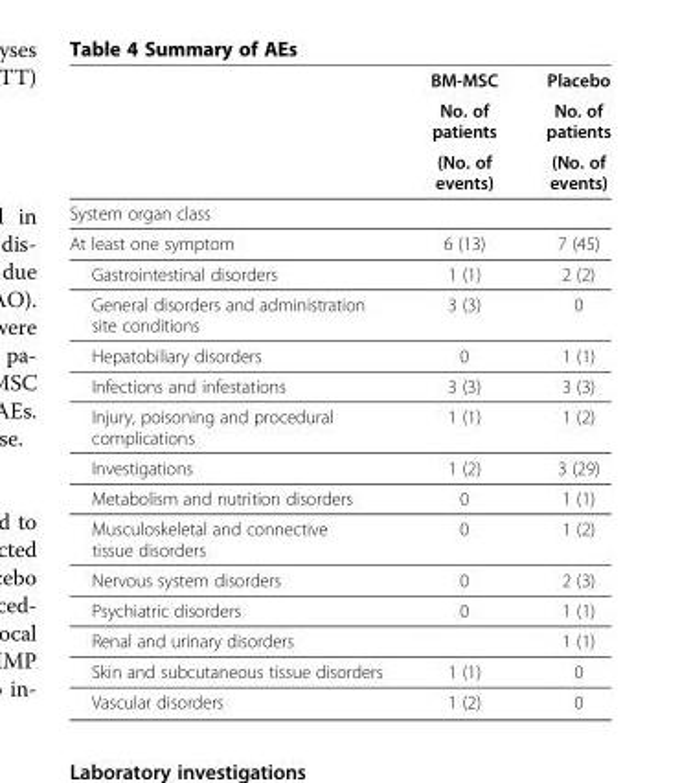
<table><thead><tr><td rowspan="3"></td><td rowspan="3">BM-MSC No. of patients (No. of events)</td><td rowspan="3">Placebo No. of patients (No. of events)</td></tr><tr></tr><tr></tr></thead><tbody><tr><td colspan="3">System organ class</td></tr><tr><td>At least one symptom</td><td>6 (13)</td><td>7 (45)</td></tr><tr><td>Gastrointestinal disorders</td><td>1 (1)</td><td>2 (2)</td></tr><tr><td>General disorders and administration site conditions</td><td>3 (3)</td><td>0</td></tr><tr><td>Hepatobiliary disorders</td><td>0</td><td>1 (1)</td></tr><tr><td>Infections and infestations</td><td>3 (3)</td><td>3 (3)</td></tr><tr><td>Injury, poisoning and procedural complications</td><td>1 (1)</td><td>1 (2)</td></tr><tr><td>Investigations</td><td>1 (2)</td><td>3 (29)</td></tr><tr><td>Metabolism and nutrition disorders</td><td>0</td><td>1 (1)</td></tr><tr><td>Musculoskeletal and connective tissue disorders</td><td>0</td><td>1 (2)</td></tr><tr><td>Nervous system disorders</td><td>0</td><td>2 (3)</td></tr><tr><td>Psychiatric disorders</td><td>0</td><td>1 (1)</td></tr><tr><td>Renal and urinary disorders</td><td></td><td>1 (1)</td></tr><tr><td>Skin and subcutaneous tissue disorders</td><td>1 (1)</td><td>0</td></tr><tr><td>Vascular disorders</td><td>1 (2)</td><td>0</td></tr></tbody></table>